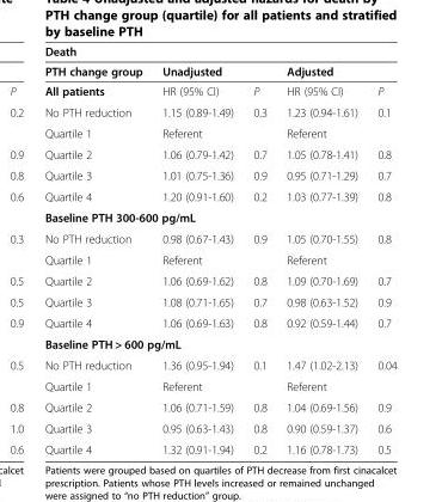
<table><thead><tr><td colspan="5">Death</td></tr><tr><td rowspan="2">PTH change group All patients</td><td colspan="2">Unadjusted</td><td colspan="2">Adjusted</td></tr><tr><td>HR (95% CI)</td><td>P</td><td>HR (95% CI)</td><td>P</td></tr></thead><tbody><tr><td>No PTH reduction</td><td>1.15 (0.89-1.49)</td><td>0.3</td><td>1.23 (0.94-1.61)</td><td>0.1</td></tr><tr><td>Quartile 1</td><td>Referent</td><td></td><td>Referent</td><td></td></tr><tr><td>Quartile 2</td><td>1.06 (0.79-1.42)</td><td>0.7</td><td>1.05 (0.78-1.41)</td><td>0.8</td></tr><tr><td>Quartile 3</td><td>1.01 (0.75-1.36)</td><td>0.9</td><td>0.95 (0.71-1.29)</td><td>0.7</td></tr><tr><td>Quartile 4</td><td>1.20 (0.91-1.60)</td><td>0.2</td><td>1.03 (0.77-1.39)</td><td>0.8</td></tr><tr><td colspan="5">Baseline PTH 300-600 pg/mL</td></tr><tr><td>No PTH reduction</td><td>0.98 (0.67-1.43)</td><td>0.9</td><td>1.05 (0.70-1.55)</td><td>0.8</td></tr><tr><td>Quartile 1</td><td>Referent</td><td></td><td>Referent</td><td></td></tr><tr><td>Quartile 2</td><td>1.06 (0.69-1.62)</td><td>0.8</td><td>1.09 (0.70-1.69)</td><td>0.7</td></tr><tr><td>Quartile 3</td><td>1.08 (0.71-1.65)</td><td>0.7</td><td>0.98 (0.63-1.52)</td><td>0.9</td></tr><tr><td>Quartile 4</td><td>1.06 (0.69-1.63)</td><td>0.8</td><td>0.92 (0.59-1.44)</td><td>0.7</td></tr><tr><td colspan="5">Baseline PTH &gt; 600 pg/mL</td></tr><tr><td>No PTH reduction</td><td>1.36 (0.95-1.94)</td><td>0.1</td><td>1.47 (1.02-2.13)</td><td>0.04</td></tr><tr><td>Quartile 1</td><td>Referent</td><td></td><td>Referent</td><td></td></tr><tr><td>Quartile 2</td><td>1.06 (0.71-1.59)</td><td>0.8</td><td>1.04 (0.69-1.56)</td><td>0.9</td></tr><tr><td>Quartile 3</td><td>0.95 (0.63-1.43)</td><td>0.8</td><td>0.90 (0.59-1.37)</td><td>0.6</td></tr><tr><td>Quartile 4</td><td>1.32 (0.91-1.94)</td><td>0.2</td><td>1.16 (0.78-1.73)</td><td>0.5</td></tr></tbody></table>